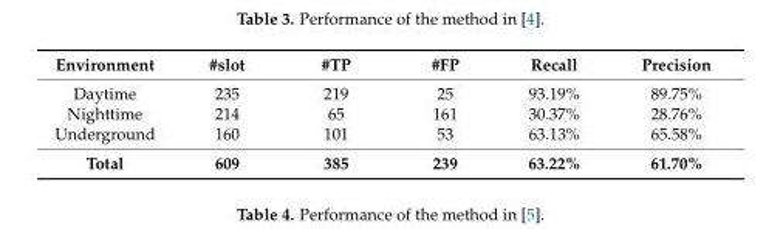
<table><thead><tr><td>Environment</td><td>#slot</td><td>#TP</td><td>#FP</td><td>Recall</td><td>Precision</td></tr></thead><tbody><tr><td>Daytime</td><td>235</td><td>219</td><td>25</td><td>93.19%</td><td>89.75%</td></tr><tr><td>Nighttime</td><td>214</td><td>65</td><td>161</td><td>30.37%</td><td>28.76%</td></tr><tr><td>Underground</td><td>160</td><td>101</td><td>53</td><td>63.13%</td><td>65.58%</td></tr><tr><td>Total</td><td>609</td><td>385</td><td>239</td><td>63.22%</td><td>61.70%</td></tr></tbody></table>